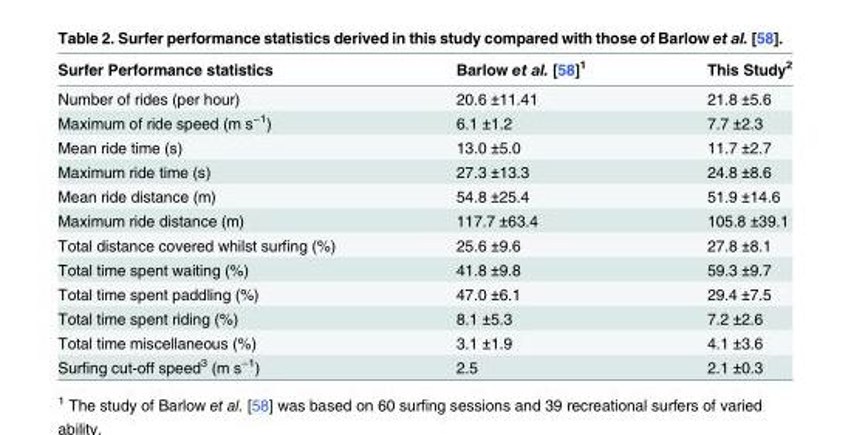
<table><thead><tr><td>Surfer Performance statistics</td><td>Barlow et al. [58]<sup>1</sup></td><td>This Study<sup>2</sup></td></tr></thead><tbody><tr><td>Number of rides (per hour)</td><td>20.6 ±11.41</td><td>21.8 ±5.6</td></tr><tr><td>Maximum of ride speed (m s<sup>−1</sup>)</td><td>6.1 ±1.2</td><td>7.7 ±2.3</td></tr><tr><td>Mean ride time (s)</td><td>13.0 ±5.0</td><td>11.7 ±2.7</td></tr><tr><td>Maximum ride time (s)</td><td>27.3 ±13.3</td><td>24.8 ±8.6</td></tr><tr><td>Mean ride distance (m)</td><td>54.8 ±25.4</td><td>51.9 ±14.6</td></tr><tr><td>Maximum ride distance (m)</td><td>117.7 ±63.4</td><td>105.8 ±39.1</td></tr><tr><td>Total distance covered whilst surfing (%)</td><td>25.6 ±9.6</td><td>27.8 ±8.1</td></tr><tr><td>Total time spent waiting (%)</td><td>41.8 ±9.8</td><td>59.3 ±9.7</td></tr><tr><td>Total time spent paddling (%)</td><td>47.0 ±6.1</td><td>29.4 ±7.5</td></tr><tr><td>Total time spent riding (%)</td><td>8.1 ±5.3</td><td>7.2 ±2.6</td></tr><tr><td>Total time miscellaneous (%)</td><td>3.1 ±1.9</td><td>4.1 ±3.6</td></tr><tr><td>Surfing cut-off speed<sup>3</sup> (m s<sup>−1</sup>)</td><td>2.5</td><td>2.1 ±0.3</td></tr></tbody></table>